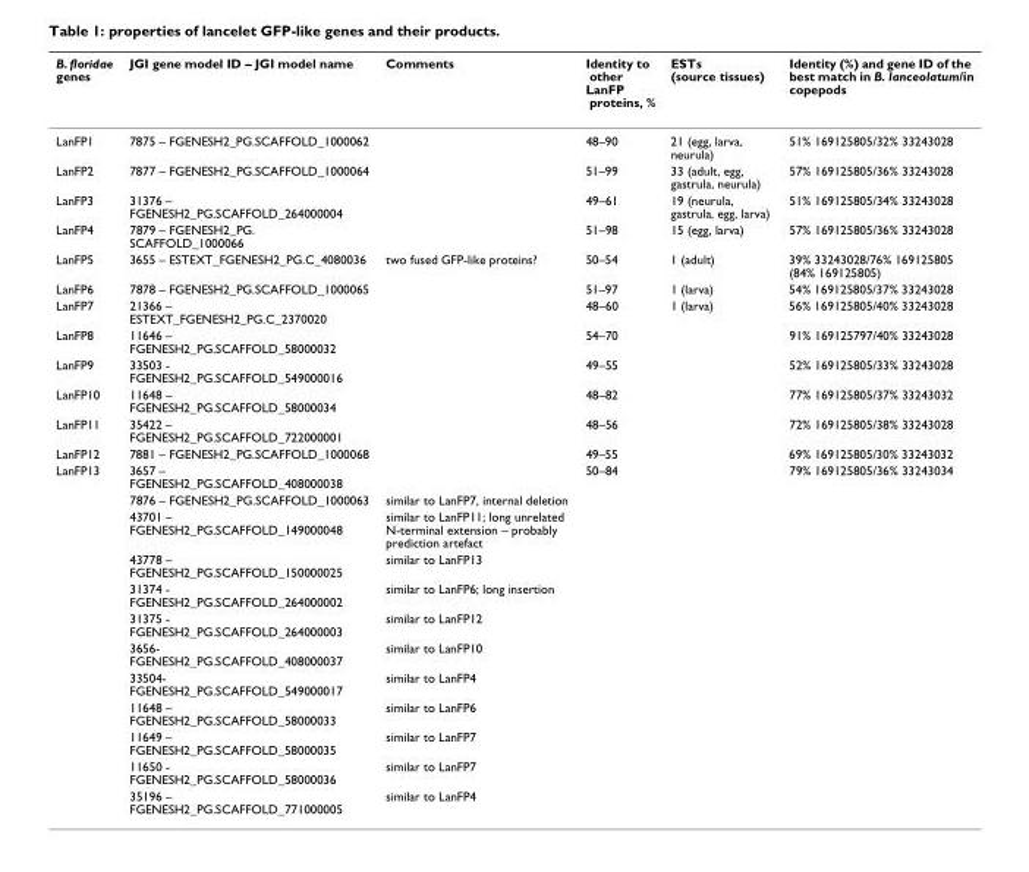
<table><thead><tr><td>B. floridae genes</td><td>JGI gene model ID – JGI model name</td><td>Comments</td><td>Identity to other LanFP proteins, %</td><td>ESTs (source tissues)</td><td>Identity (%) and gene ID of the best match in B. lanceolatum/in copepods</td></tr></thead><tbody><tr><td>LanFP1</td><td>7875 – FGENESH2_PG.SCAFFOLD_1000062</td><td></td><td>48–90</td><td>21 (egg, larva, neurula)</td><td>51% 169125805/32% 33243028</td></tr><tr><td>LanFP2</td><td>7877 – FGENESH2_PG.SCAFFOLD_1000064</td><td></td><td>51–99</td><td>33 (adult, egg, gastrula, neurula)</td><td>57% 169125805/36% 33243028</td></tr><tr><td>LanFP3</td><td>31376 – FGENESH2_PG.SCAFFOLD_264000004</td><td></td><td>49–61</td><td>19 (neurula, gastrula, egg, larva)</td><td>51% 169125805/34% 33243028</td></tr><tr><td>LanFP4</td><td>7879 – FGENESH2_PG. SCAFFOLD_1000066</td><td></td><td>51–98</td><td>15 (egg, larva)</td><td>57% 169125805/36% 33243028</td></tr><tr><td>LanFP5</td><td>3655 – ESTEXT_FGENESH2_PG.C_4080036</td><td>two fused GFP-like proteins?</td><td>50–54</td><td>1 (adult)</td><td>39% 33243028/76% 169125805 (84% 169125805)</td></tr><tr><td>LanFP6</td><td>7878 – FGENESH2_PG.SCAFFOLD_1000065</td><td></td><td>51–97</td><td>1 (larva)</td><td>54% 169125805/37% 33243028</td></tr><tr><td>LanFP7</td><td>21366 – ESTEXT_FGENESH2_PG.C_2370020</td><td></td><td>48–60</td><td>1 (larva)</td><td>56% 169125805/40% 33243028</td></tr><tr><td>LanFP8</td><td>11646 – FGENESH2_PG.SCAFFOLD_58000032</td><td></td><td>54–70</td><td></td><td>91% 169125797/40% 33243028</td></tr><tr><td>LanFP9</td><td>33503 - FGENESH2_PG.SCAFFOLD_549000016</td><td></td><td>49–55</td><td></td><td>52% 169125805/33% 33243028</td></tr><tr><td>LanFP10</td><td>11648 – FGENESH2_PG.SCAFFOLD_58000034</td><td></td><td>48–82</td><td></td><td>77% 169125805/37% 33243032</td></tr><tr><td>LanFP11</td><td>35422 – FGENESH2_PG.SCAFFOLD_722000001</td><td></td><td>48–56</td><td></td><td>72% 169125805/38% 33243028</td></tr><tr><td>LanFP12</td><td>7881 – FGENESH2_PG.SCAFFOLD_1000068</td><td></td><td>49–55</td><td></td><td>69% 169125805/30% 33243032</td></tr><tr><td rowspan="12">LanFP13</td><td>3657 – FGENESH2_PG.SCAFFOLD_408000038</td><td></td><td>50–84</td><td></td><td>79% 169125805/36% 33243034</td></tr><tr><td>7876 – FGENESH2_PG.SCAFFOLD_1000063</td><td>similar to LanFP7, internal deletion</td><td></td><td></td><td></td></tr><tr><td>43701 – FGENESH2_PG.SCAFFOLD_149000048</td><td>similar to LanFP11; long unrelated N-terminal extension – probably prediction artefact</td><td></td><td></td><td></td></tr><tr><td>43778 – FGENESH2_PG.SCAFFOLD_150000025</td><td>similar to LanFP13</td><td></td><td></td><td></td></tr><tr><td>31374 - FGENESH2_PG.SCAFFOLD_264000002</td><td>similar to LanFP6; long insertion</td><td></td><td></td><td></td></tr><tr><td>31375 - FGENESH2_PG.SCAFFOLD_264000003</td><td>similar to LanFP12</td><td></td><td></td><td></td></tr><tr><td>3656- FGENESH2_PG.SCAFFOLD_408000037</td><td>similar to LanFP10</td><td></td><td></td><td></td></tr><tr><td>33504- FGENESH2_PG.SCAFFOLD_549000017</td><td>similar to LanFP4</td><td></td><td></td><td></td></tr><tr><td>11648 – FGENESH2_PG.SCAFFOLD_58000033</td><td>similar to LanFP6</td><td></td><td></td><td></td></tr><tr><td>11649 – FGENESH2_PG.SCAFFOLD_58000035</td><td>similar to LanFP7</td><td></td><td></td><td></td></tr><tr><td>11650 - FGENESH2_PG.SCAFFOLD_58000036</td><td>similar to LanFP7</td><td></td><td></td><td></td></tr><tr><td>35196 – FGENESH2_PG.SCAFFOLD_771000005</td><td>similar to LanFP4</td><td></td><td></td><td></td></tr></tbody></table>